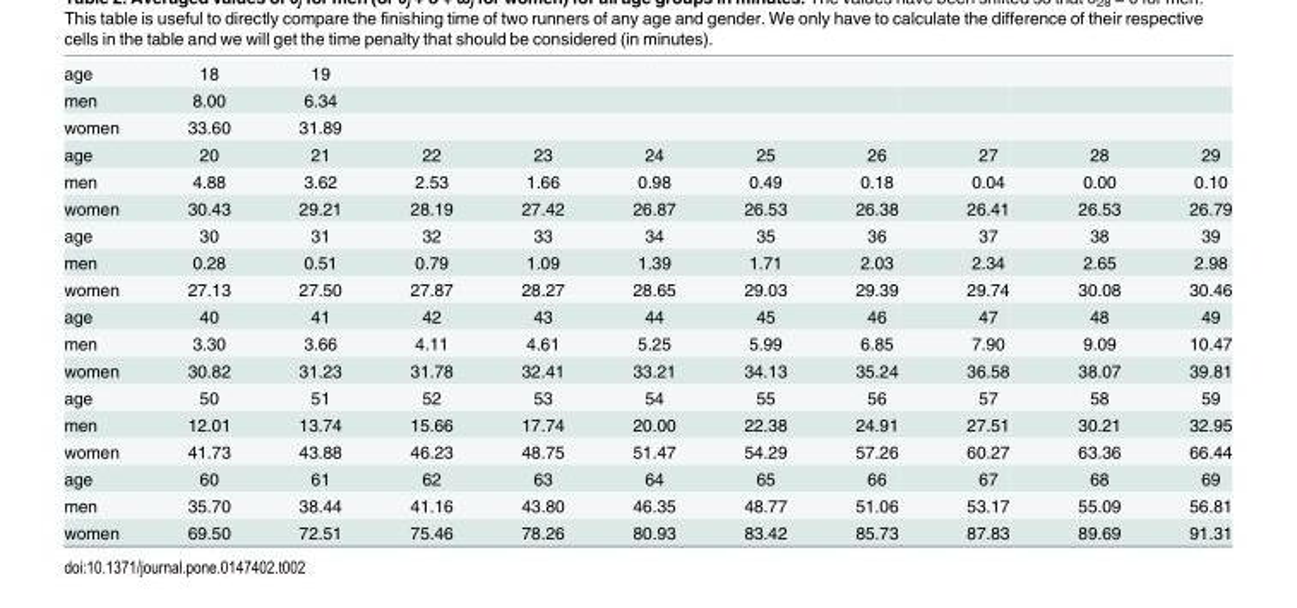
<table><tbody><tr><td>age</td><td>18</td><td>19</td><td></td><td></td><td></td><td></td><td></td><td></td><td></td><td></td></tr><tr><td>men</td><td>8.00</td><td>6.34</td><td></td><td></td><td></td><td></td><td></td><td></td><td></td><td></td></tr><tr><td>women</td><td>33.60</td><td>31.89</td><td></td><td></td><td></td><td></td><td></td><td></td><td></td><td></td></tr><tr><td>age</td><td>20</td><td>21</td><td>22</td><td>23</td><td>24</td><td>25</td><td>26</td><td>27</td><td>28</td><td>29</td></tr><tr><td>men</td><td>4.88</td><td>3.62</td><td>2.53</td><td>1.66</td><td>0.98</td><td>0.49</td><td>0.18</td><td>0.04</td><td>0.00</td><td>0.10</td></tr><tr><td>women</td><td>30.43</td><td>29.21</td><td>28.19</td><td>27.42</td><td>26.87</td><td>26.53</td><td>26.38</td><td>26.41</td><td>26.53</td><td>26.79</td></tr><tr><td>age</td><td>30</td><td>31</td><td>32</td><td>33</td><td>34</td><td>35</td><td>36</td><td>37</td><td>38</td><td>39</td></tr><tr><td>men</td><td>0.28</td><td>0.51</td><td>0.79</td><td>1.09</td><td>1.39</td><td>1.71</td><td>2.03</td><td>2.34</td><td>2.65</td><td>2.98</td></tr><tr><td>women</td><td>27.13</td><td>27.50</td><td>27.87</td><td>28.27</td><td>28.65</td><td>29.03</td><td>29.39</td><td>29.74</td><td>30.08</td><td>30.46</td></tr><tr><td>age</td><td>40</td><td>41</td><td>42</td><td>43</td><td>44</td><td>45</td><td>46</td><td>47</td><td>48</td><td>49</td></tr><tr><td>men</td><td>3.30</td><td>3.66</td><td>4.11</td><td>4.61</td><td>5.25</td><td>5.99</td><td>6.85</td><td>7.90</td><td>9.09</td><td>10.47</td></tr><tr><td>women</td><td>30.82</td><td>31.23</td><td>31.78</td><td>32.41</td><td>33.21</td><td>34.13</td><td>35.24</td><td>36.58</td><td>38.07</td><td>39.81</td></tr><tr><td>age</td><td>50</td><td>51</td><td>52</td><td>53</td><td>54</td><td>55</td><td>56</td><td>57</td><td>58</td><td>59</td></tr><tr><td>men</td><td>12.01</td><td>13.74</td><td>15.66</td><td>17.74</td><td>20.00</td><td>22.38</td><td>24.91</td><td>27.51</td><td>30.21</td><td>32.95</td></tr><tr><td>women</td><td>41.73</td><td>43.88</td><td>46.23</td><td>48.75</td><td>51.47</td><td>54.29</td><td>57.26</td><td>60.27</td><td>63.36</td><td>66.44</td></tr><tr><td>age</td><td>60</td><td>61</td><td>62</td><td>63</td><td>64</td><td>65</td><td>66</td><td>67</td><td>68</td><td>69</td></tr><tr><td>men</td><td>35.70</td><td>38.44</td><td>41.16</td><td>43.80</td><td>46.35</td><td>48.77</td><td>51.06</td><td>53.17</td><td>55.09</td><td>56.81</td></tr><tr><td>women</td><td>69.50</td><td>72.51</td><td>75.46</td><td>78.26</td><td>80.93</td><td>83.42</td><td>85.73</td><td>87.83</td><td>89.69</td><td>91.31</td></tr></tbody></table>